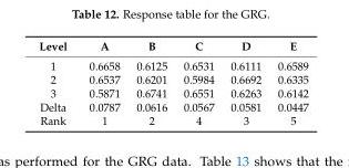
<table><thead><tr><td>Level</td><td>A</td><td>B</td><td>C</td><td>D</td><td>E</td></tr></thead><tbody><tr><td>1</td><td>0.6658</td><td>0.6125</td><td>0.6531</td><td>0.6111</td><td>0.6589</td></tr><tr><td>2</td><td>0.6537</td><td>0.6201</td><td>0.5984</td><td>0.6692</td><td>0.6335</td></tr><tr><td>3</td><td>0.5871</td><td>0.6741</td><td>0.6551</td><td>0.6263</td><td>0.6142</td></tr><tr><td>Delta</td><td>0.0787</td><td>0.0616</td><td>0.0567</td><td>0.0581</td><td>0.0447</td></tr><tr><td>Rank</td><td>1</td><td>2</td><td>4</td><td>3</td><td>5</td></tr></tbody></table>